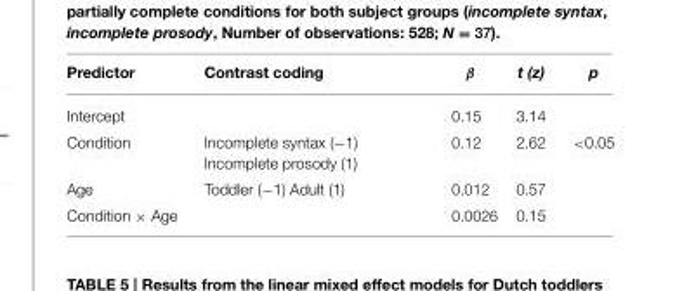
<table><thead><tr><td>Predictor</td><td>Contrast coding</td><td>β</td><td>t (z)</td><td>p</td></tr></thead><tbody><tr><td>Intercept</td><td></td><td>0.15</td><td>3.14</td><td></td></tr><tr><td>Condition</td><td>Incomplete syntax (−1) Incomplete prosody (1)</td><td>0.12</td><td>2.62</td><td>&lt;0.05</td></tr><tr><td>Age</td><td>Toddler (−1) Adult (1)</td><td>0.012</td><td>0.57</td><td></td></tr><tr><td>Condition × Age</td><td></td><td>0.0026</td><td>0.15</td><td></td></tr></tbody></table>